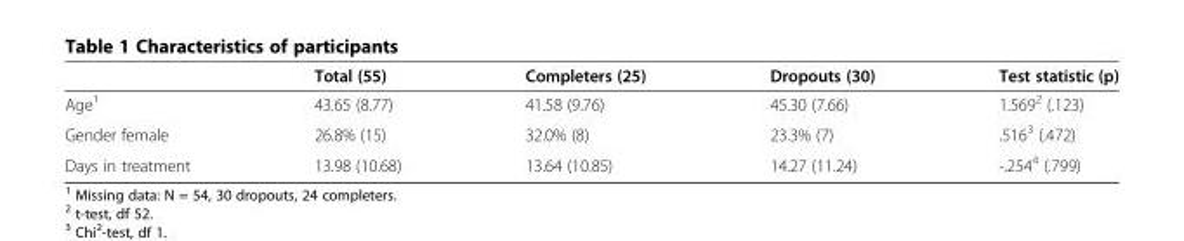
<table><thead><tr><td></td><td>Total (55)</td><td>Completers (25)</td><td>Dropouts (30)</td><td>Test statistic (p)</td></tr></thead><tbody><tr><td>Age<sup>1</sup></td><td>43.65 (8.77)</td><td>41.58 (9.76)</td><td>45.30 (7.66)</td><td>1.569<sup>2</sup> (.123)</td></tr><tr><td>Gender female</td><td>26.8% (15)</td><td>32.0% (8)</td><td>23.3% (7)</td><td>.516<sup>3</sup> (.472)</td></tr><tr><td>Days in treatment</td><td>13.98 (10.68)</td><td>13.64 (10.85)</td><td>14.27 (11.24)</td><td>-.254<sup>4</sup> (.799)</td></tr></tbody></table>